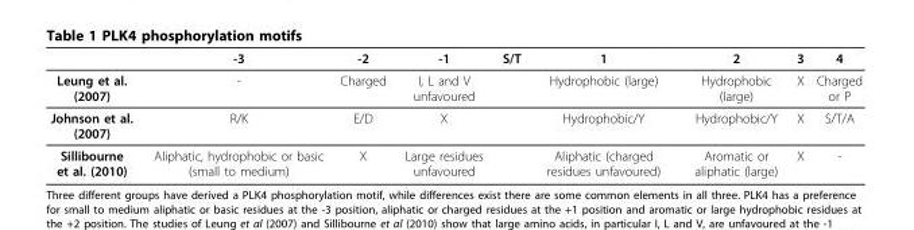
<table><thead><tr><td></td><td>-3</td><td>-2</td><td>-1</td><td>S/T</td><td>1</td><td>2</td><td>3</td><td>4</td></tr></thead><tbody><tr><td>Leung et al. (2007)</td><td>-</td><td>Charged</td><td>I, L and V unfavoured</td><td></td><td>Hydrophobic (large)</td><td>Hydrophobic (large)</td><td>X</td><td>Charged or P</td></tr><tr><td>Johnson et al. (2007)</td><td>R/K</td><td>E/D</td><td>X</td><td></td><td>Hydrophobic/Y</td><td>Hydrophobic/Y</td><td>X</td><td>S/T/A</td></tr><tr><td>Sillibourne et al. (2010)</td><td>Aliphatic, hydrophobic or basic (small to medium)</td><td>X</td><td>Large residues unfavoured</td><td></td><td>Aliphatic (charged residues unfavoured)</td><td>Aromatic or aliphatic (large)</td><td>X</td><td>-</td></tr></tbody></table>